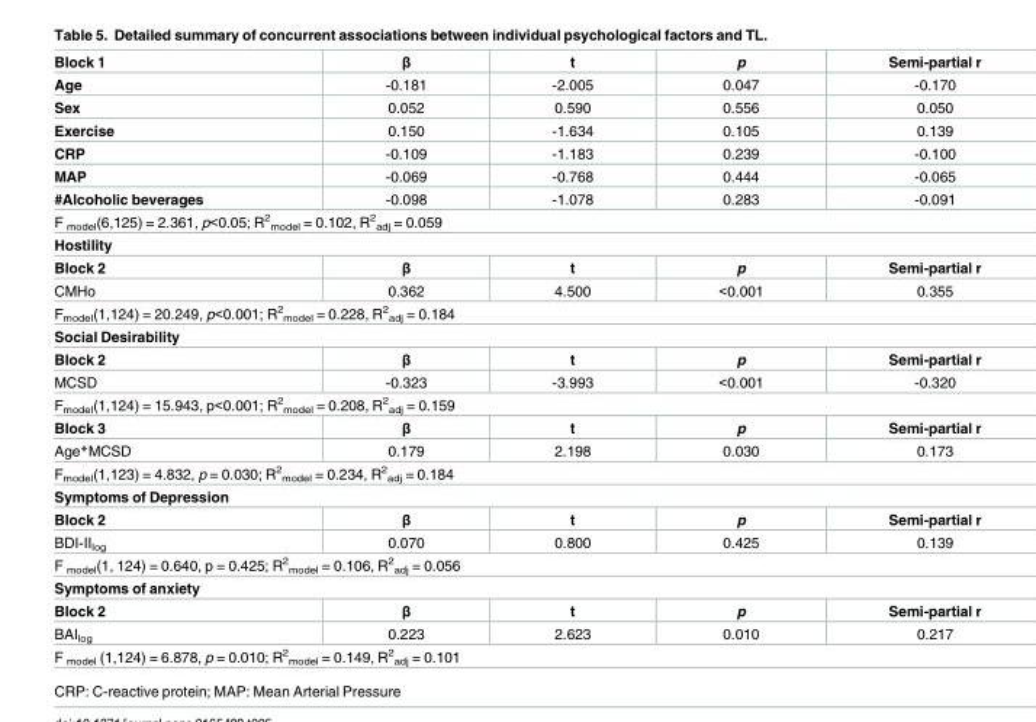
<table><tbody><tr><td>Block 1</td><td>β</td><td>t</td><td>p</td><td>Semi-partial r</td></tr><tr><td>Age</td><td>-0.181</td><td>-2.005</td><td>0.047</td><td>-0.170</td></tr><tr><td>Sex</td><td>0.052</td><td>0.590</td><td>0.556</td><td>0.050</td></tr><tr><td>Exercise</td><td>0.150</td><td>-1.634</td><td>0.105</td><td>0.139</td></tr><tr><td>CRP</td><td>-0.109</td><td>-1.183</td><td>0.239</td><td>-0.100</td></tr><tr><td>MAP</td><td>-0.069</td><td>-0.768</td><td>0.444</td><td>-0.065</td></tr><tr><td>#Alcoholic beverages</td><td>-0.098</td><td>-1.078</td><td>0.283</td><td>-0.091</td></tr><tr><td colspan="5">F <sub>model</sub>(6,125) = 2.361, p&lt;0.05; R<sup>2</sup> <sub>model</sub> = 0.102, R<sup>2</sup> <sub>adj</sub> = 0.059</td></tr><tr><td colspan="5">Hostility</td></tr><tr><td>Block 2</td><td>β</td><td>t</td><td>p</td><td>Semi-partial r</td></tr><tr><td>CMHo</td><td>0.362</td><td>4.500</td><td>&lt;0.001</td><td>0.355</td></tr><tr><td colspan="5">F<sub>model</sub>(1,124) = 20.249, p&lt;0.001; R<sup>2</sup> <sub>model</sub> = 0.228, R<sup>2</sup> <sub>adj</sub> = 0.184</td></tr><tr><td colspan="5">Social Desirability</td></tr><tr><td>Block 2</td><td>β</td><td>t</td><td>p</td><td>Semi-partial r</td></tr><tr><td>MCSD</td><td>-0.323</td><td>-3.993</td><td>&lt;0.001</td><td>-0.320</td></tr><tr><td colspan="5">F<sub>model</sub>(1,124) = 15.943, p&lt;0.001; R<sup>2</sup> <sub>model</sub> = 0.208, R<sup>2</sup> <sub>adj</sub> = 0.159</td></tr><tr><td>Block 3</td><td>β</td><td>t</td><td>p</td><td>Semi-partial r</td></tr><tr><td>Age*MCSD</td><td>0.179</td><td>2.198</td><td>0.030</td><td>0.173</td></tr><tr><td colspan="5">F<sub>model</sub>(1,123) = 4.832, p = 0.030; R<sup>2</sup> <sub>model</sub> = 0.234, R<sup>2</sup> <sub>adj</sub> = 0.184</td></tr><tr><td colspan="5">Symptoms of Depression</td></tr><tr><td>Block 2</td><td>β</td><td>t</td><td>p</td><td>Semi-partial r</td></tr><tr><td>BDI-II<sub>log</sub></td><td>0.070</td><td>0.800</td><td>0.425</td><td>0.139</td></tr><tr><td colspan="5">F <sub>model</sub>(1, 124) = 0.640, p = 0.425; R<sup>2</sup> <sub>model</sub> = 0.106, R<sup>2</sup> <sub>adj</sub> = 0.056</td></tr><tr><td colspan="5">Symptoms of anxiety</td></tr><tr><td>Block 2</td><td>β</td><td>t</td><td>p</td><td>Semi-partial r</td></tr><tr><td>BAI<sub>log</sub></td><td>0.223</td><td>2.623</td><td>0.010</td><td>0.217</td></tr><tr><td colspan="5">F <sub>model</sub> (1,124) = 6.878, p = 0.010; R<sup>2</sup> <sub>model</sub> = 0.149, R<sup>2</sup> <sub>adj</sub> = 0.101</td></tr></tbody></table>